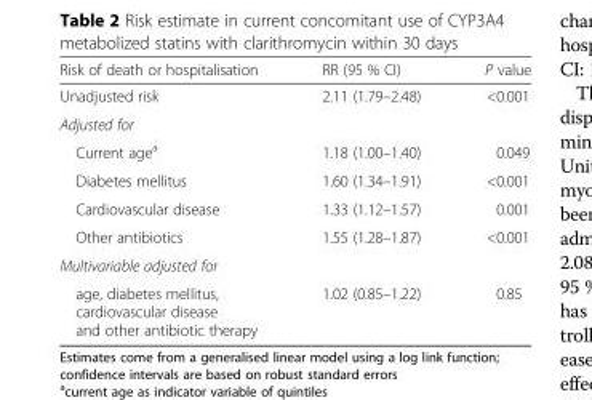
<table><thead><tr><td>Risk of death or hospitalisation</td><td>RR (95 % CI)</td><td>P value</td></tr></thead><tbody><tr><td>Unadjusted risk</td><td>2.11 (1.79–2.48)</td><td>&lt;0.001</td></tr><tr><td colspan="3">Adjusted for</td></tr><tr><td>Current age<sup>a</sup></td><td>1.18 (1.00–1.40)</td><td>0.049</td></tr><tr><td>Diabetes mellitus</td><td>1.60 (1.34–1.91)</td><td>&lt;0.001</td></tr><tr><td>Cardiovascular disease</td><td>1.33 (1.12–1.57)</td><td>0.001</td></tr><tr><td>Other antibiotics</td><td>1.55 (1.28–1.87)</td><td>&lt;0.001</td></tr><tr><td colspan="3">Multivariable adjusted for</td></tr><tr><td>age, diabetes mellitus, cardiovascular disease and other antibiotic therapy</td><td>1.02 (0.85–1.22)</td><td>0.85</td></tr></tbody></table>